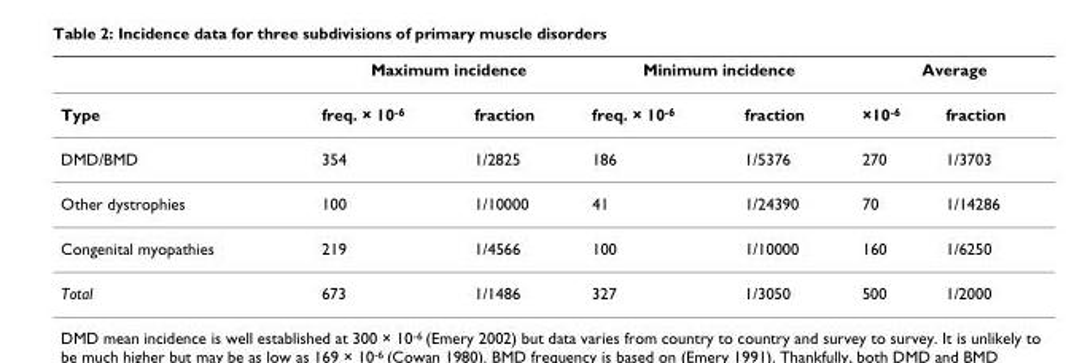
<table><thead><tr><td rowspan="2">Type</td><td colspan="2">Maximum incidence</td><td colspan="2">Minimum incidence</td><td colspan="2">Average</td></tr><tr><td>freq. × 10<sup>-6</sup></td><td>fraction</td><td>freq. × 10<sup>-6</sup></td><td>fraction</td><td>×10<sup>-6</sup></td><td>fraction</td></tr></thead><tbody><tr><td>DMD/BMD</td><td>354</td><td>1/2825</td><td>186</td><td>1/5376</td><td>270</td><td>1/3703</td></tr><tr><td>Other dystrophies</td><td>100</td><td>1/10000</td><td>41</td><td>1/24390</td><td>70</td><td>1/14286</td></tr><tr><td>Congenital myopathies</td><td>219</td><td>1/4566</td><td>100</td><td>1/10000</td><td>160</td><td>1/6250</td></tr><tr><td>Total</td><td>673</td><td>1/1486</td><td>327</td><td>1/3050</td><td>500</td><td>1/2000</td></tr></tbody></table>